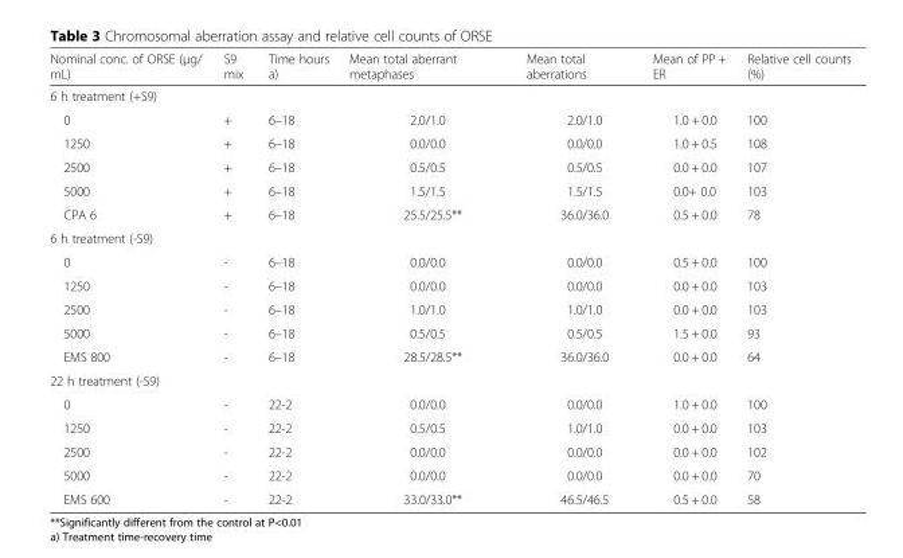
<table><thead><tr><td>Nominal conc. of ORSE (μg/ mL)</td><td>S9 mix</td><td>Time hours a)</td><td>Mean total aberrant metaphases</td><td>Mean total aberrations</td><td>Mean of PP + ER</td><td>Relative cell counts (%)</td></tr></thead><tbody><tr><td colspan="7">6 h treatment (+S9)</td></tr><tr><td>0</td><td>+</td><td>6–18</td><td>2.0/1.0</td><td>2.0/1.0</td><td>1.0 + 0.0</td><td>100</td></tr><tr><td>1250</td><td>+</td><td>6–18</td><td>0.0/0.0</td><td>0.0/0.0</td><td>1.0 + 0.5</td><td>108</td></tr><tr><td>2500</td><td>+</td><td>6–18</td><td>0.5/0.5</td><td>0.5/0.5</td><td>0.0 + 0.0</td><td>107</td></tr><tr><td>5000</td><td>+</td><td>6–18</td><td>1.5/1.5</td><td>1.5/1.5</td><td>0.0+ 0.0</td><td>103</td></tr><tr><td>CPA 6</td><td>+</td><td>6–18</td><td>25.5/25.5**</td><td>36.0/36.0</td><td>0.5 + 0.0</td><td>78</td></tr><tr><td colspan="7">6 h treatment (-S9)</td></tr><tr><td>0</td><td>-</td><td>6–18</td><td>0.0/0.0</td><td>0.0/0.0</td><td>0.5 + 0.0</td><td>100</td></tr><tr><td>1250</td><td>-</td><td>6–18</td><td>0.0/0.0</td><td>0.0/0.0</td><td>0.0 + 0.0</td><td>103</td></tr><tr><td>2500</td><td>-</td><td>6–18</td><td>1.0/1.0</td><td>1.0/1.0</td><td>0.0 + 0.0</td><td>103</td></tr><tr><td>5000</td><td>-</td><td>6–18</td><td>0.5/0.5</td><td>0.5/0.5</td><td>1.5 + 0.0</td><td>93</td></tr><tr><td>EMS 800</td><td>-</td><td>6–18</td><td>28.5/28.5**</td><td>36.0/36.0</td><td>0.0 + 0.0</td><td>64</td></tr><tr><td colspan="7">22 h treatment (-S9)</td></tr><tr><td>0</td><td>-</td><td>22-2</td><td>0.0/0.0</td><td>0.0/0.0</td><td>1.0 + 0.0</td><td>100</td></tr><tr><td>1250</td><td>-</td><td>22-2</td><td>0.5/0.5</td><td>1.0/1.0</td><td>0.0 + 0.0</td><td>103</td></tr><tr><td>2500</td><td>-</td><td>22-2</td><td>0.0/0.0</td><td>0.0/0.0</td><td>0.0 + 0.0</td><td>102</td></tr><tr><td>5000</td><td>-</td><td>22-2</td><td>0.0/0.0</td><td>0.0/0.0</td><td>0.0 + 0.0</td><td>70</td></tr><tr><td>EMS 600</td><td>-</td><td>22-2</td><td>33.0/33.0**</td><td>46.5/46.5</td><td>0.5 + 0.0</td><td>58</td></tr></tbody></table>